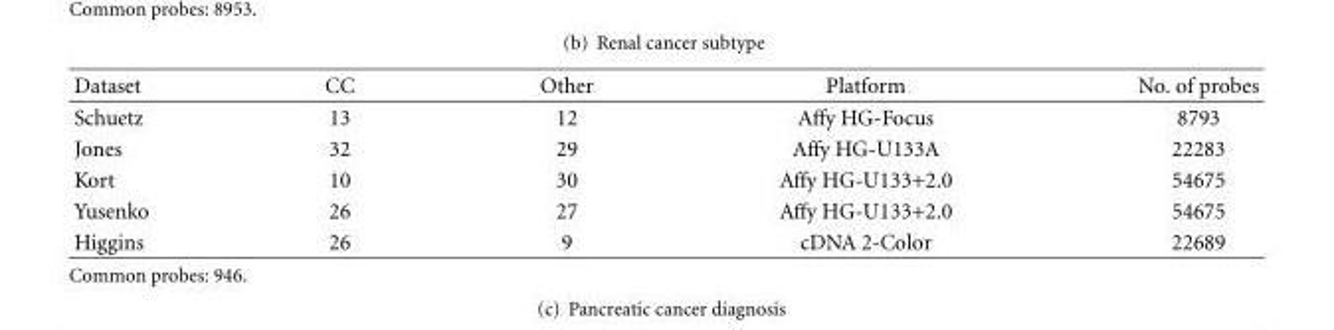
<table><thead><tr><td>Dataset</td><td>CC</td><td>Other</td><td>Platform</td><td>No. of probes</td></tr></thead><tbody><tr><td>Schuetz</td><td>13</td><td>12</td><td>Affy HG-Focus</td><td>8793</td></tr><tr><td>Jones</td><td>32</td><td>29</td><td>Affy HG-U133A</td><td>22283</td></tr><tr><td>Kort</td><td>10</td><td>30</td><td>Affy HG-U133+2.0</td><td>54675</td></tr><tr><td>Yusenko</td><td>26</td><td>27</td><td>Affy HG-U133+2.0</td><td>54675</td></tr><tr><td>Higgins</td><td>26</td><td>9</td><td>cDNA 2-Color</td><td>22689</td></tr></tbody></table>